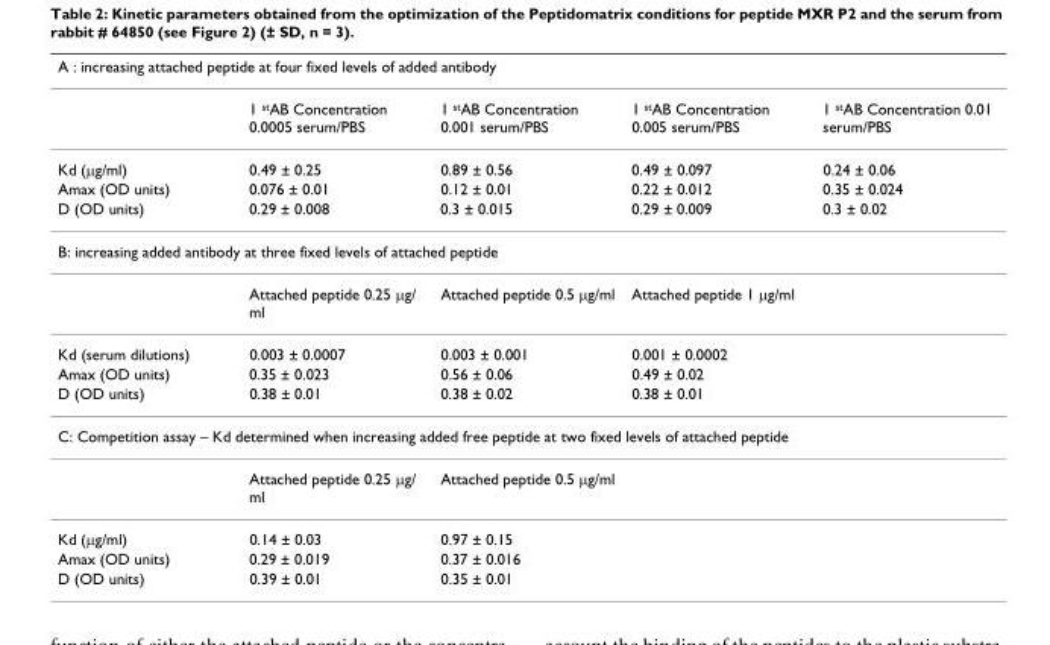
<table><thead><tr><td colspan="5">A : increasing attached peptide at four fixed levels of added antibody</td></tr><tr><td></td><td>1 <sup>st</sup>AB Concentration 0.0005 serum/PBS</td><td>1 <sup>st</sup>AB Concentration 0.001 serum/PBS</td><td>1 <sup>st</sup>AB Concentration 0.005 serum/PBS</td><td>1 <sup>st</sup>AB Concentration 0.01 serum/PBS</td></tr></thead><tbody><tr><td>Kd (µg/ml)</td><td>0.49 ± 0.25</td><td>0.89 ± 0.56</td><td>0.49 ± 0.097</td><td>0.24 ± 0.06</td></tr><tr><td>Amax (OD units)</td><td>0.076 ± 0.01</td><td>0.12 ± 0.01</td><td>0.22 ± 0.012</td><td>0.35 ± 0.024</td></tr><tr><td>D (OD units)</td><td>0.29 ± 0.008</td><td>0.3 ± 0.015</td><td>0.29 ± 0.009</td><td>0.3 ± 0.02</td></tr><tr><td colspan="5">B: increasing added antibody at three fixed levels of attached peptide</td></tr><tr><td></td><td>Attached peptide 0.25 µg/ ml</td><td>Attached peptide 0.5 µg/ml</td><td>Attached peptide 1 µg/ml</td><td></td></tr><tr><td>Kd (serum dilutions)</td><td>0.003 ± 0.0007</td><td>0.003 ± 0.001</td><td>0.001 ± 0.0002</td><td></td></tr><tr><td>Amax (OD units)</td><td>0.35 ± 0.023</td><td>0.56 ± 0.06</td><td>0.49 ± 0.02</td><td></td></tr><tr><td>D (OD units)</td><td>0.38 ± 0.01</td><td>0.38 ± 0.02</td><td>0.38 ± 0.01</td><td></td></tr><tr><td colspan="5">C: Competition assay – Kd determined when increasing added free peptide at two fixed levels of attached peptide</td></tr><tr><td></td><td>Attached peptide 0.25 µg/ ml</td><td>Attached peptide 0.5 µg/ml</td><td></td><td></td></tr><tr><td>Kd (µg/ml)</td><td>0.14 ± 0.03</td><td>0.97 ± 0.15</td><td></td><td></td></tr><tr><td>Amax (OD units)</td><td>0.29 ± 0.019</td><td>0.37 ± 0.016</td><td></td><td></td></tr><tr><td>D (OD units)</td><td>0.39 ± 0.01</td><td>0.35 ± 0.01</td><td></td><td></td></tr></tbody></table>